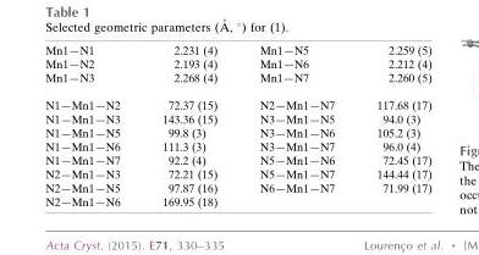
<table><tbody><tr><td>Mn1—N1</td><td>2.231 (4)</td><td>Mn1—N5</td><td>2.259 (5)</td></tr><tr><td>Mn1—N2</td><td>2.193 (4)</td><td>Mn1—N6</td><td>2.212 (4)</td></tr><tr><td>Mn1—N3</td><td>2.268 (4)</td><td>Mn1—N7</td><td>2.260 (5)</td></tr><tr><td>N1—Mn1—N2</td><td>72.37 (15)</td><td>N2—Mn1—N7</td><td>117.68 (17)</td></tr><tr><td>N1—Mn1—N3</td><td>143.36 (15)</td><td>N3—Mn1—N5</td><td>94.0 (3)</td></tr><tr><td>N1—Mn1—N5</td><td>99.8 (3)</td><td>N3—Mn1—N6</td><td>105.2 (3)</td></tr><tr><td>N1—Mn1—N6</td><td>111.3 (3)</td><td>N3—Mn1—N7</td><td>96.0 (4)</td></tr><tr><td>N1—Mn1—N7</td><td>92.2 (4)</td><td>N5—Mn1—N6</td><td>72.45 (17)</td></tr><tr><td>N2—Mn1—N3</td><td>72.21 (15)</td><td>N5—Mn1—N7</td><td>144.44 (17)</td></tr><tr><td>N2—Mn1—N5</td><td>97.87 (16)</td><td>N6—Mn1—N7</td><td>71.99 (17)</td></tr><tr><td>N2—Mn1—N6</td><td>169.95 (18)</td><td></td><td></td></tr></tbody></table>